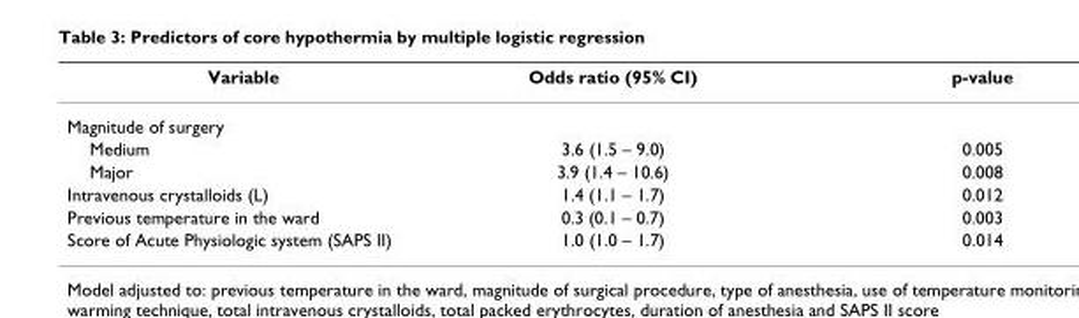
<table><thead><tr><td>Variable</td><td>Odds ratio (95% CI)</td><td>p-value</td></tr></thead><tbody><tr><td colspan="3">Magnitude of surgery</td></tr><tr><td>Medium</td><td>3.6 (1.5 – 9.0)</td><td>0.005</td></tr><tr><td>Major</td><td>3.9 (1.4 – 10.6)</td><td>0.008</td></tr><tr><td>Intravenous crystalloids (L)</td><td>1.4 (1.1 – 1.7)</td><td>0.012</td></tr><tr><td>Previous temperature in the ward</td><td>0.3 (0.1 – 0.7)</td><td>0.003</td></tr><tr><td>Score of Acute Physiologic system (SAPS II)</td><td>1.0 (1.0 – 1.7)</td><td>0.014</td></tr></tbody></table>